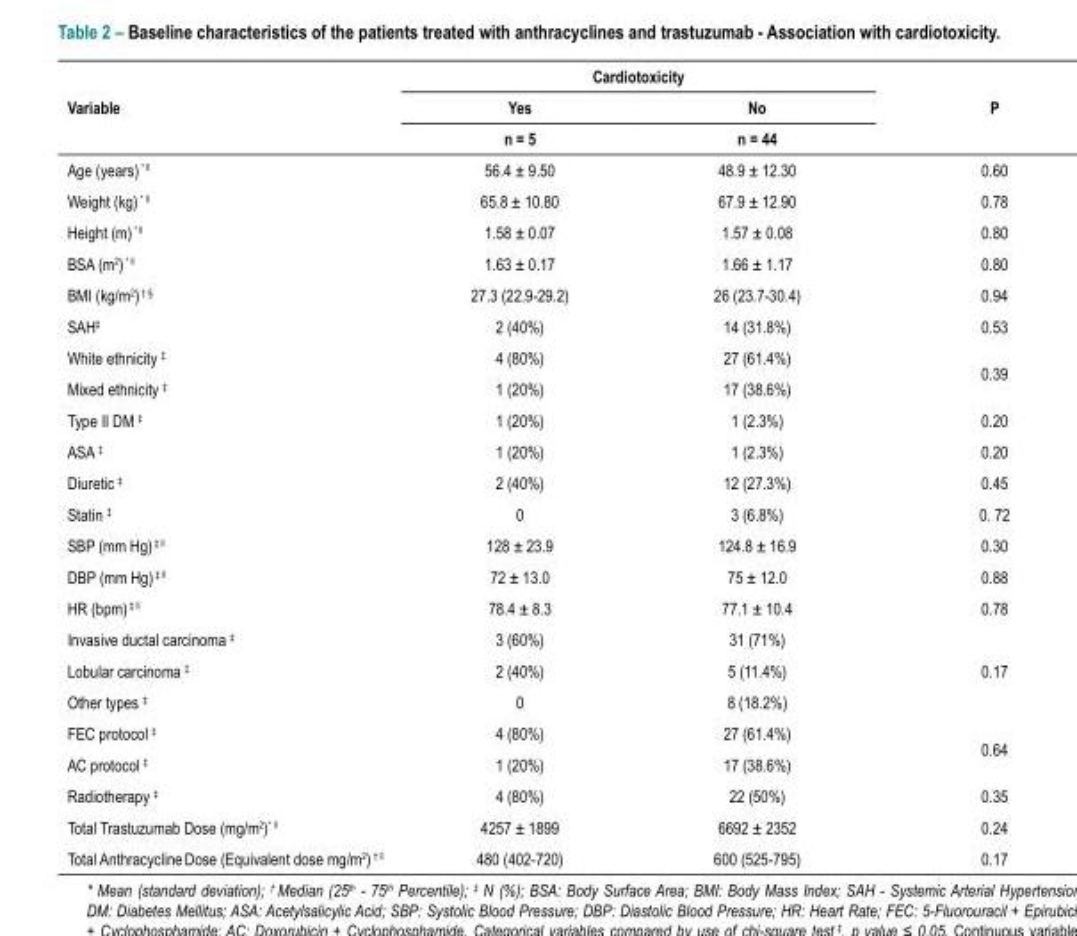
<table><thead><tr><td rowspan="3">Variable</td><td colspan="2">Cardiotoxicity</td><td rowspan="3">P</td></tr><tr><td rowspan="2">Yes n = 5</td><td rowspan="2">No n = 44</td></tr><tr></tr></thead><tbody><tr><td>Age (years) * <sup>ll</sup></td><td>56.4 ± 9.50</td><td>48.9 ± 12.30</td><td>0.60</td></tr><tr><td>Weight (kg) * <sup>ll</sup></td><td>65.8 ± 10.80</td><td>67.9 ± 12.90</td><td>0.78</td></tr><tr><td>Height (m) * <sup>ll</sup></td><td>1.58 ± 0.07</td><td>1.57 ± 0.08</td><td>0.80</td></tr><tr><td>BSA (m<sup>2</sup>) * <sup>ll</sup></td><td>1.63 ± 0.17</td><td>1.66 ± 1.17</td><td>0.80</td></tr><tr><td>BMI (kg/m<sup>2</sup>) <sup>† §</sup></td><td>27.3 (22.9-29.2)</td><td>26 (23.7-30.4)</td><td>0.94</td></tr><tr><td>SAH<sup>‡</sup></td><td>2 (40%)</td><td>14 (31.8%)</td><td>0.53</td></tr><tr><td>White ethnicity <sup>‡</sup></td><td>4 (80%)</td><td>27 (61.4%)</td><td rowspan="2">0.39</td></tr><tr><td>Mixed ethnicity <sup>‡</sup></td><td>1 (20%)</td><td>17 (38.6%)</td></tr><tr><td>Type II DM <sup>‡</sup></td><td>1 (20%)</td><td>1 (2.3%)</td><td>0.20</td></tr><tr><td>ASA <sup>‡</sup></td><td>1 (20%)</td><td>1 (2.3%)</td><td>0.20</td></tr><tr><td>Diuretic <sup>‡</sup></td><td>2 (40%)</td><td>12 (27.3%)</td><td>0.45</td></tr><tr><td>Statin <sup>‡</sup></td><td>0</td><td>3 (6.8%)</td><td>0. 72</td></tr><tr><td>SBP (mm Hg) <sup>‡ ll</sup></td><td>128 ± 23.9</td><td>124.8 ± 16.9</td><td>0.30</td></tr><tr><td>DBP (mm Hg) <sup>‡ ll</sup></td><td>72 ± 13.0</td><td>75 ± 12.0</td><td>0.88</td></tr><tr><td>HR (bpm) <sup>‡ ll</sup></td><td>78.4 ± 8.3</td><td>77.1 ± 10.4</td><td>0.78</td></tr><tr><td>Invasive ductal carcinoma <sup>‡</sup></td><td>3 (60%)</td><td>31 (71%)</td><td></td></tr><tr><td>Lobular carcinoma <sup>‡</sup></td><td>2 (40%)</td><td>5 (11.4%)</td><td>0.17</td></tr><tr><td>Other types <sup>‡</sup></td><td>0</td><td>8 (18.2%)</td><td></td></tr><tr><td>FEC protocol <sup>‡</sup></td><td>4 (80%)</td><td>27 (61.4%)</td><td rowspan="2">0.64</td></tr><tr><td>AC protocol <sup>‡</sup></td><td>1 (20%)</td><td>17 (38.6%)</td></tr><tr><td>Radiotherapy <sup>‡</sup></td><td>4 (80%)</td><td>22 (50%)</td><td>0.35</td></tr><tr><td>Total Trastuzumab Dose (mg/m<sup>2</sup>)* <sup>ll</sup></td><td>4257 ± 1899</td><td>6692 ± 2352</td><td>0.24</td></tr><tr><td>Total Anthracycline Dose (Equivalent dose mg/m<sup>2</sup>) <sup>† ll</sup></td><td>480 (402-720)</td><td>600 (525-795)</td><td>0.17</td></tr></tbody></table>